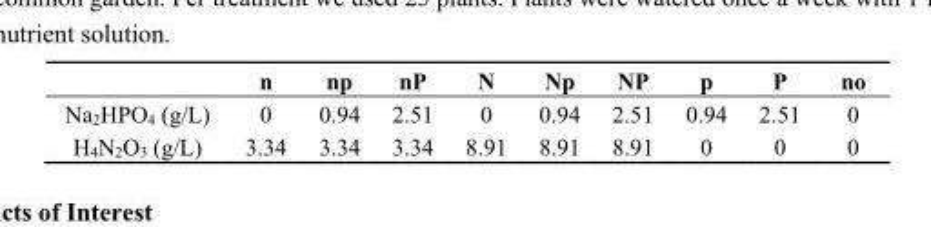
<table><thead><tr><td></td><td>n</td><td>np</td><td>nP</td><td>N</td><td>Np</td><td>NP</td><td>p</td><td>P</td><td>no</td></tr></thead><tbody><tr><td>Na<sub>2</sub>HPO<sub>4</sub> (g/L)</td><td>0</td><td>0.94</td><td>2.51</td><td>0</td><td>0.94</td><td>2.51</td><td>0.94</td><td>2.51</td><td>0</td></tr><tr><td>H<sub>4</sub>N<sub>2</sub>O<sub>3</sub> (g/L)</td><td>3.34</td><td>3.34</td><td>3.34</td><td>8.91</td><td>8.91</td><td>8.91</td><td>0</td><td>0</td><td>0</td></tr></tbody></table>